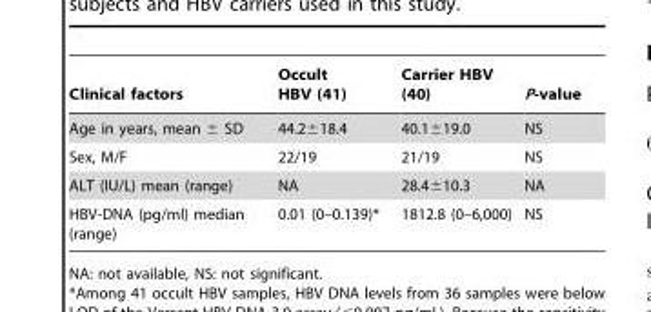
<table><thead><tr><td>Clinical factors</td><td>Occult HBV (41)</td><td>Carrier HBV (40)</td><td>P-value</td></tr></thead><tbody><tr><td>Age in years, mean ± SD</td><td>44.2±18.4</td><td>40.1±19.0</td><td>NS</td></tr><tr><td>Sex, M/F</td><td>22/19</td><td>21/19</td><td>NS</td></tr><tr><td>ALT (IU/L) mean (range)</td><td>NA</td><td>28.4±10.3</td><td>NA</td></tr><tr><td>HBV-DNA (pg/ml) median (range)</td><td>0.01 (0–0.139)*</td><td>1812.8 (0–6,000)</td><td>NS</td></tr></tbody></table>